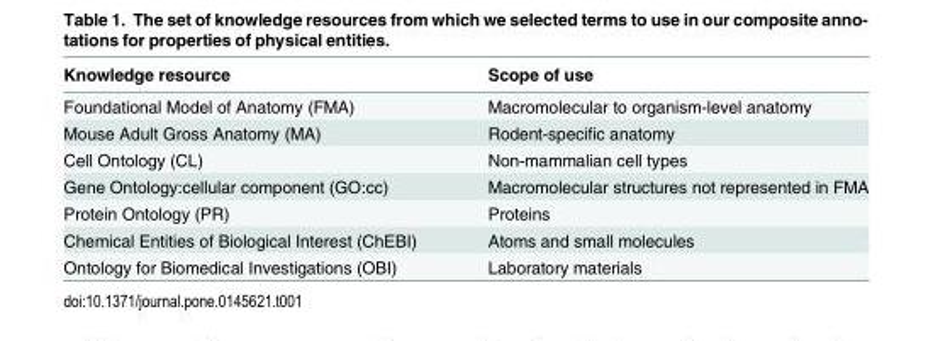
<table><thead><tr><td>Knowledge resource</td><td>Scope of use</td></tr></thead><tbody><tr><td>Foundational Model of Anatomy (FMA)</td><td>Macromolecular to organism-level anatomy</td></tr><tr><td>Mouse Adult Gross Anatomy (MA)</td><td>Rodent-specific anatomy</td></tr><tr><td>Cell Ontology (CL)</td><td>Non-mammalian cell types</td></tr><tr><td>Gene Ontology:cellular component (GO:cc)</td><td>Macromolecular structures not represented in FMA</td></tr><tr><td>Protein Ontology (PR)</td><td>Proteins</td></tr><tr><td>Chemical Entities of Biological Interest (ChEBI)</td><td>Atoms and small molecules</td></tr><tr><td>Ontology for Biomedical Investigations (OBI)</td><td>Laboratory materials</td></tr></tbody></table>